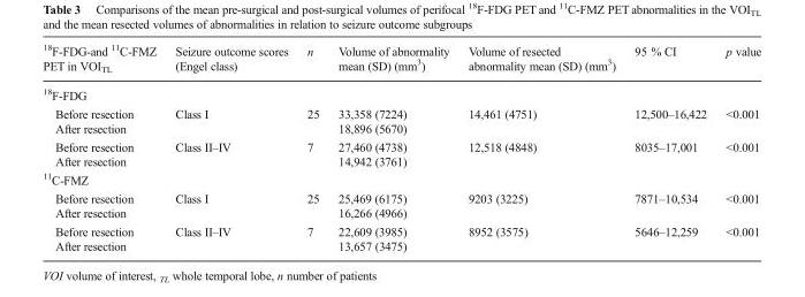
<table><thead><tr><td><sup>18</sup>F-FDG-and <sup>11</sup>C-FMZ PET in VOI<sub>TL</sub></td><td>Seizure outcome scores (Engel class)</td><td>n</td><td>Volume of abnormality mean (SD) (mm<sup>3</sup>)</td><td>Volume of resected abnormality mean (SD) (mm<sup>3</sup>)</td><td>95 % CI</td><td>p value</td></tr></thead><tbody><tr><td colspan="7"><sup>18</sup>F-FDG</td></tr><tr><td>Before resection</td><td rowspan="2">Class I</td><td rowspan="2">25</td><td>33,358 (7224)</td><td rowspan="2">14,461 (4751)</td><td rowspan="2">12,500–16,422</td><td rowspan="2">&lt;0.001</td></tr><tr><td>After resection</td><td>18,896 (5670)</td></tr><tr><td>Before resection</td><td rowspan="2">Class II–IV</td><td rowspan="2">7</td><td>27,460 (4738)</td><td rowspan="2">12,518 (4848)</td><td rowspan="2">8035–17,001</td><td rowspan="2">&lt;0.001</td></tr><tr><td>After resection</td><td>14,942 (3761)</td></tr><tr><td colspan="7"><sup>11</sup>C-FMZ</td></tr><tr><td>Before resection</td><td rowspan="2">Class I</td><td rowspan="2">25</td><td>25,469 (6175)</td><td rowspan="2">9203 (3225)</td><td rowspan="2">7871–10,534</td><td rowspan="2">&lt;0.001</td></tr><tr><td>After resection</td><td>16,266 (4966)</td></tr><tr><td>Before resection</td><td rowspan="2">Class II–IV</td><td rowspan="2">7</td><td>22,609 (3985)</td><td rowspan="2">8952 (3575)</td><td rowspan="2">5646–12,259</td><td rowspan="2">&lt;0.001</td></tr><tr><td>After resection</td><td>13,657 (3475)</td></tr></tbody></table>